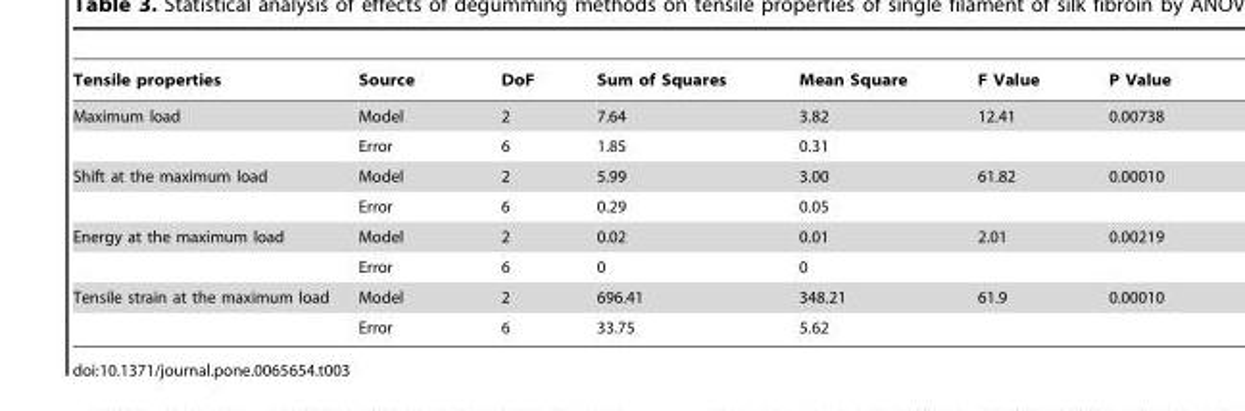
<table><thead><tr><td>Tensile properties</td><td>Source</td><td>DoF</td><td>Sum of Squares</td><td>Mean Square</td><td>F Value</td><td>P Value</td></tr></thead><tbody><tr><td rowspan="2">Maximum load</td><td>Model</td><td>2</td><td>7.64</td><td>3.82</td><td>12.41</td><td>0.00738</td></tr><tr><td>Error</td><td>6</td><td>1.85</td><td>0.31</td><td></td><td></td></tr><tr><td rowspan="2">Shift at the maximum load</td><td>Model</td><td>2</td><td>5.99</td><td>3.00</td><td>61.82</td><td>0.00010</td></tr><tr><td>Error</td><td>6</td><td>0.29</td><td>0.05</td><td></td><td></td></tr><tr><td rowspan="2">Energy at the maximum load</td><td>Model</td><td>2</td><td>0.02</td><td>0.01</td><td>2.01</td><td>0.00219</td></tr><tr><td>Error</td><td>6</td><td>0</td><td>0</td><td></td><td></td></tr><tr><td rowspan="2">Tensile strain at the maximum load</td><td>Model</td><td>2</td><td>696.41</td><td>348.21</td><td>61.9</td><td>0.00010</td></tr><tr><td>Error</td><td>6</td><td>33.75</td><td>5.62</td><td></td><td></td></tr></tbody></table>